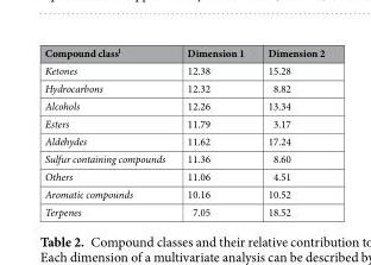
<table><thead><tr><td>Compound class<sup>l</sup></td><td>Dimension 1</td><td>Dimension 2</td></tr></thead><tbody><tr><td>Ketones</td><td>12.38</td><td>15.28</td></tr><tr><td>Hydrocarbons</td><td>12.32</td><td>8.82</td></tr><tr><td>Alcohols</td><td>12.26</td><td>13.34</td></tr><tr><td>Esters</td><td>11.79</td><td>3.17</td></tr><tr><td>Aldehydes</td><td>11.62</td><td>17.24</td></tr><tr><td>Sulfur containing compounds</td><td>11.36</td><td>8.60</td></tr><tr><td>Others</td><td>11.06</td><td>4.51</td></tr><tr><td>Aromatic compounds</td><td>10.16</td><td>10.52</td></tr><tr><td>Terpenes</td><td>7.05</td><td>18.52</td></tr></tbody></table>